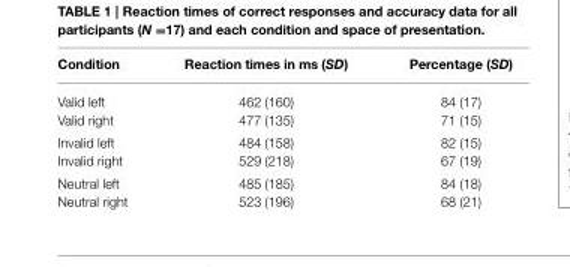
<table><thead><tr><td>Condition</td><td>Reaction times in ms (SD)</td><td>Percentage (SD)</td></tr></thead><tbody><tr><td>Valid left Valid right</td><td>462 (160) 477 (135)</td><td>84 (17) 71 (15)</td></tr><tr><td>Invalid left Invalid right</td><td>484 (158) 529 (218)</td><td>82 (15) 67 (19)</td></tr><tr><td>Neutral left Neutral right</td><td>485 (185) 523 (196)</td><td>84 (18) 68 (21)</td></tr></tbody></table>